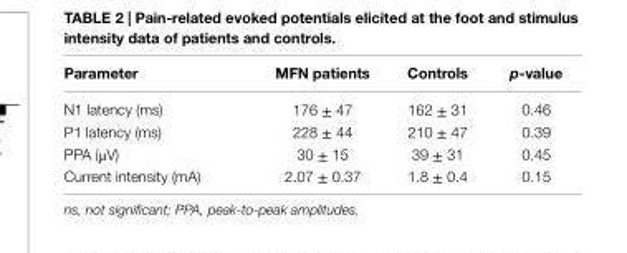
<table><thead><tr><td>Parameter</td><td>MFn patients</td><td>controls</td><td>p-value</td></tr></thead><tbody><tr><td>N1 latency (ms)</td><td>176 ± 47</td><td>162 ± 31</td><td>0.46</td></tr><tr><td>P1 latency (ms)</td><td>228 ± 44</td><td>210 ± 47</td><td>0.39</td></tr><tr><td>PPA (μV)</td><td>30 ± 15</td><td>39 ± 31</td><td>0.45</td></tr><tr><td>Current intensity (mA)</td><td>2.07 ± 0.37</td><td>1.8 ± 0.4</td><td>0.15</td></tr></tbody></table>